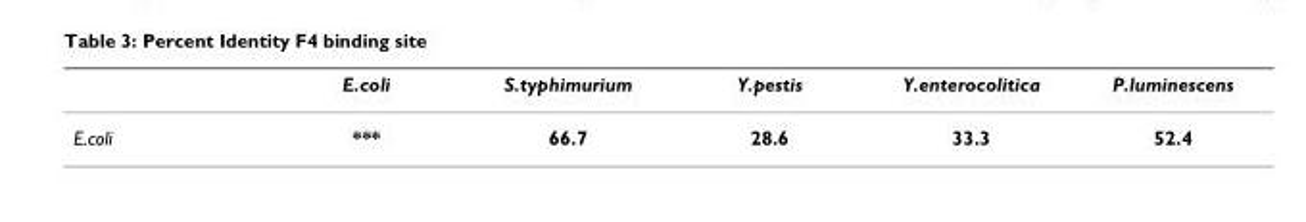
<table><thead><tr><td></td><td>E.coli</td><td>S.typhimurium</td><td>Y.pestis</td><td>Y.enterocolitica</td><td>P.luminescens</td></tr></thead><tbody><tr><td>E.coli</td><td>***</td><td>66.7</td><td>28.6</td><td>33.3</td><td>52.4</td></tr></tbody></table>